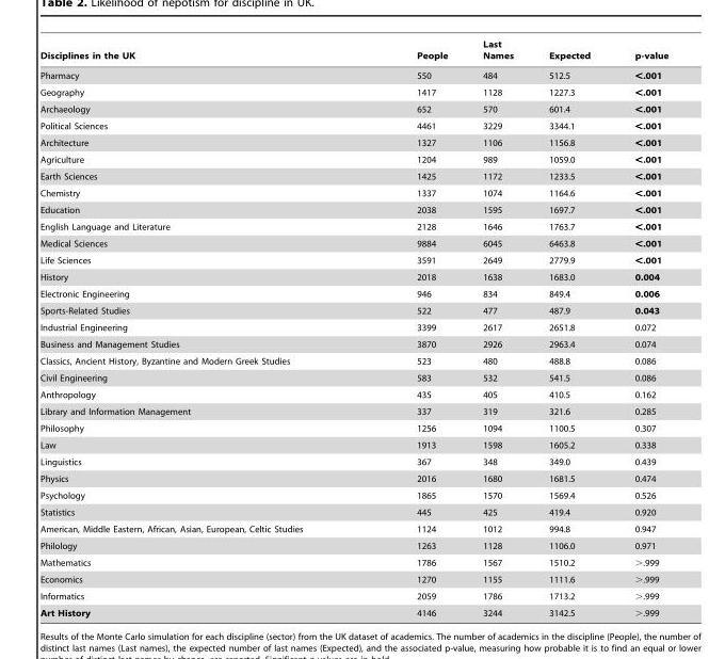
<table><thead><tr><td>Disciplines in the UK</td><td>People</td><td>Last Names</td><td>Expected</td><td>p-value</td></tr></thead><tbody><tr><td>Pharmacy</td><td>550</td><td>484</td><td>512.5</td><td>&lt;.001</td></tr><tr><td>Geography</td><td>1417</td><td>1128</td><td>1227.3</td><td>&lt;.001</td></tr><tr><td>Archaeology</td><td>652</td><td>570</td><td>601.4</td><td>&lt;.001</td></tr><tr><td>Political Sciences</td><td>4461</td><td>3229</td><td>3344.1</td><td>&lt;.001</td></tr><tr><td>Architecture</td><td>1327</td><td>1106</td><td>1156.8</td><td>&lt;.001</td></tr><tr><td>Agriculture</td><td>1204</td><td>989</td><td>1059.0</td><td>&lt;.001</td></tr><tr><td>Earth Sciences</td><td>1425</td><td>1172</td><td>1233.5</td><td>&lt;.001</td></tr><tr><td>Chemistry</td><td>1337</td><td>1074</td><td>1164.6</td><td>&lt;.001</td></tr><tr><td>Education</td><td>2038</td><td>1595</td><td>1697.7</td><td>&lt;.001</td></tr><tr><td>English Language and Literature</td><td>2128</td><td>1646</td><td>1763.7</td><td>&lt;.001</td></tr><tr><td>Medical Sciences</td><td>9884</td><td>6045</td><td>6463.8</td><td>&lt;.001</td></tr><tr><td>Life Sciences</td><td>3591</td><td>2649</td><td>2779.9</td><td>&lt;.001</td></tr><tr><td>History</td><td>2018</td><td>1638</td><td>1683.0</td><td>0.004</td></tr><tr><td>Electronic Engineering</td><td>946</td><td>834</td><td>849.4</td><td>0.006</td></tr><tr><td>Sports-Related Studies</td><td>522</td><td>477</td><td>487.9</td><td>0.043</td></tr><tr><td>Industrial Engineering</td><td>3399</td><td>2617</td><td>2651.8</td><td>0.072</td></tr><tr><td>Business and Management Studies</td><td>3870</td><td>2926</td><td>2963.4</td><td>0.074</td></tr><tr><td>Classics, Ancient History, Byzantine and Modern Greek Studies</td><td>523</td><td>480</td><td>488.8</td><td>0.086</td></tr><tr><td>Civil Engineering</td><td>583</td><td>532</td><td>541.5</td><td>0.086</td></tr><tr><td>Anthropology</td><td>435</td><td>405</td><td>410.5</td><td>0.162</td></tr><tr><td>Library and Information Management</td><td>337</td><td>319</td><td>321.6</td><td>0.285</td></tr><tr><td>Philosophy</td><td>1256</td><td>1094</td><td>1100.5</td><td>0.307</td></tr><tr><td>Law</td><td>1913</td><td>1598</td><td>1605.2</td><td>0.338</td></tr><tr><td>Linguistics</td><td>367</td><td>348</td><td>349.0</td><td>0.439</td></tr><tr><td>Physics</td><td>2016</td><td>1680</td><td>1681.5</td><td>0.474</td></tr><tr><td>Psychology</td><td>1865</td><td>1570</td><td>1569.4</td><td>0.526</td></tr><tr><td>Statistics</td><td>445</td><td>425</td><td>419.4</td><td>0.920</td></tr><tr><td>American, Middle Eastern, African, Asian, European, Celtic Studies</td><td>1124</td><td>1012</td><td>994.8</td><td>0.947</td></tr><tr><td>Philology</td><td>1263</td><td>1128</td><td>1106.0</td><td>0.971</td></tr><tr><td>Mathematics</td><td>1786</td><td>1567</td><td>1510.2</td><td>&gt;.999</td></tr><tr><td>Economics</td><td>1270</td><td>1155</td><td>1111.6</td><td>&gt;.999</td></tr><tr><td>Informatics</td><td>2059</td><td>1786</td><td>1713.2</td><td>&gt;.999</td></tr><tr><td>Art History</td><td>4146</td><td>3244</td><td>3142.5</td><td>&gt;.999</td></tr></tbody></table>